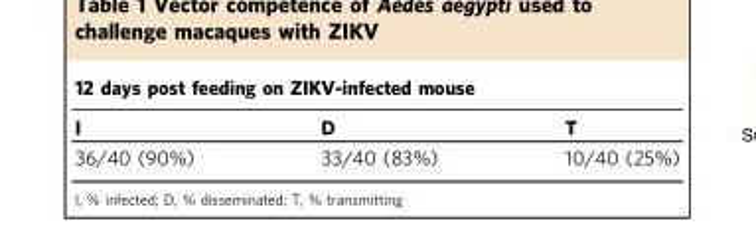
<table><thead><tr><td colspan="3">12 days post feeding on ZIKV-infected mouse</td></tr><tr><td>I</td><td>D</td><td>T</td></tr></thead><tbody><tr><td>36/40 (90%)</td><td>33/40 (83%)</td><td>10/40 (25%)</td></tr></tbody></table>